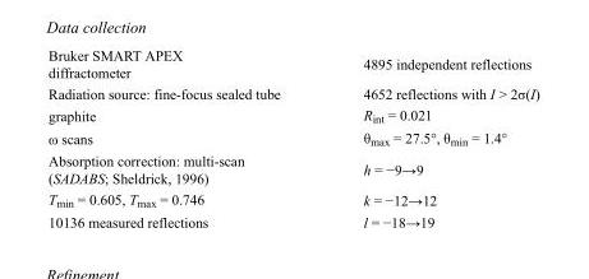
<table><tbody><tr><td>Bruker SMART APEX diffractometer</td><td>4895 independent reflections</td></tr><tr><td>Radiation source: fine-focus sealed tube</td><td>4652 reflections with I &gt; 2σ(I)</td></tr><tr><td>graphite</td><td>R<sub>int</sub> = 0.021</td></tr><tr><td>ω scans</td><td>θ<sub>max</sub> = 27.5°, θ<sub>min</sub> = 1.4°</td></tr><tr><td>Absorption correction: multi-scan (SADABS; Sheldrick, 1996)</td><td>h = −9→9</td></tr><tr><td>T<sub>min</sub> = 0.605, T<sub>max</sub> = 0.746</td><td>k = −12→12</td></tr><tr><td>10136 measured reflections</td><td>l = −18→19</td></tr></tbody></table>